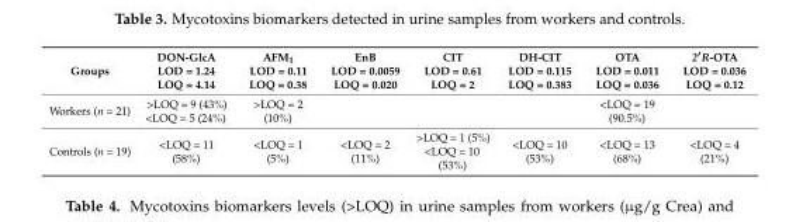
<table><thead><tr><td>Groups</td><td>DON-GlcA LOD = 1.24 LOQ = 4.14</td><td>AFM<sub>1</sub> LOD = 0.11 LOQ = 0.38</td><td>EnB LOD = 0.0059 LOQ = 0.020</td><td>CIT LOD = 0.61 LOQ = 2</td><td>DH-CIT LOD = 0.115 LOQ = 0.383</td><td>OTA LOD = 0.011 LOQ = 0.036</td><td>2′R-OTA LOD = 0.036 LOQ = 0.12</td></tr></thead><tbody><tr><td>Workers (n = 21)</td><td>&gt;LOQ = 9 (43%) &lt;LOQ = 5 (24%)</td><td>&gt;LOQ = 2 (10%)</td><td></td><td></td><td></td><td>&lt;LOQ = 19 (90.5%)</td><td></td></tr><tr><td>Controls (n = 19)</td><td>&lt;LOQ = 11 (58%)</td><td>&lt;LOQ = 1 (5%)</td><td>&lt;LOQ = 2 (11%)</td><td>&gt;LOQ = 1 (5%) &lt;LOQ = 10 (53%)</td><td>&lt;LOQ = 10 (53%)</td><td>&lt;LOQ = 13 (68%)</td><td>&lt;LOQ = 4 (21%)</td></tr></tbody></table>